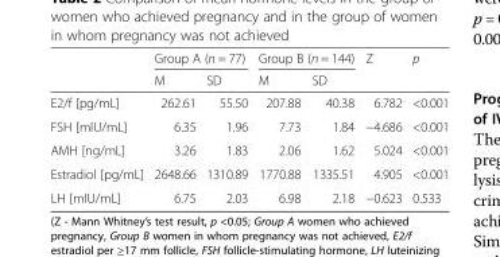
<table><thead><tr><td rowspan="2"></td><td colspan="2">Group A (n = 77)</td><td colspan="2">Group B (n = 144)</td><td rowspan="2">Z</td><td rowspan="2">p</td></tr><tr><td>M</td><td>SD</td><td>M</td><td>SD</td></tr></thead><tbody><tr><td>E2/f [pg/mL]</td><td>262.61</td><td>55.50</td><td>207.88</td><td>40.38</td><td>6.782</td><td>&lt;0.001</td></tr><tr><td>FSH [mIU/mL]</td><td>6.35</td><td>1.96</td><td>7.73</td><td>1.84</td><td>−4.686</td><td>&lt;0.001</td></tr><tr><td>AMH [ng/mL]</td><td>3.26</td><td>1.83</td><td>2.06</td><td>1.62</td><td>5.024</td><td>&lt;0.001</td></tr><tr><td>Estradiol [pg/mL]</td><td>2648.66</td><td>1310.89</td><td>1770.88</td><td>1335.51</td><td>4.905</td><td>&lt;0.001</td></tr><tr><td>LH [mIU/mL]</td><td>6.75</td><td>2.03</td><td>6.98</td><td>2.18</td><td>−0.623</td><td>0.533</td></tr></tbody></table>